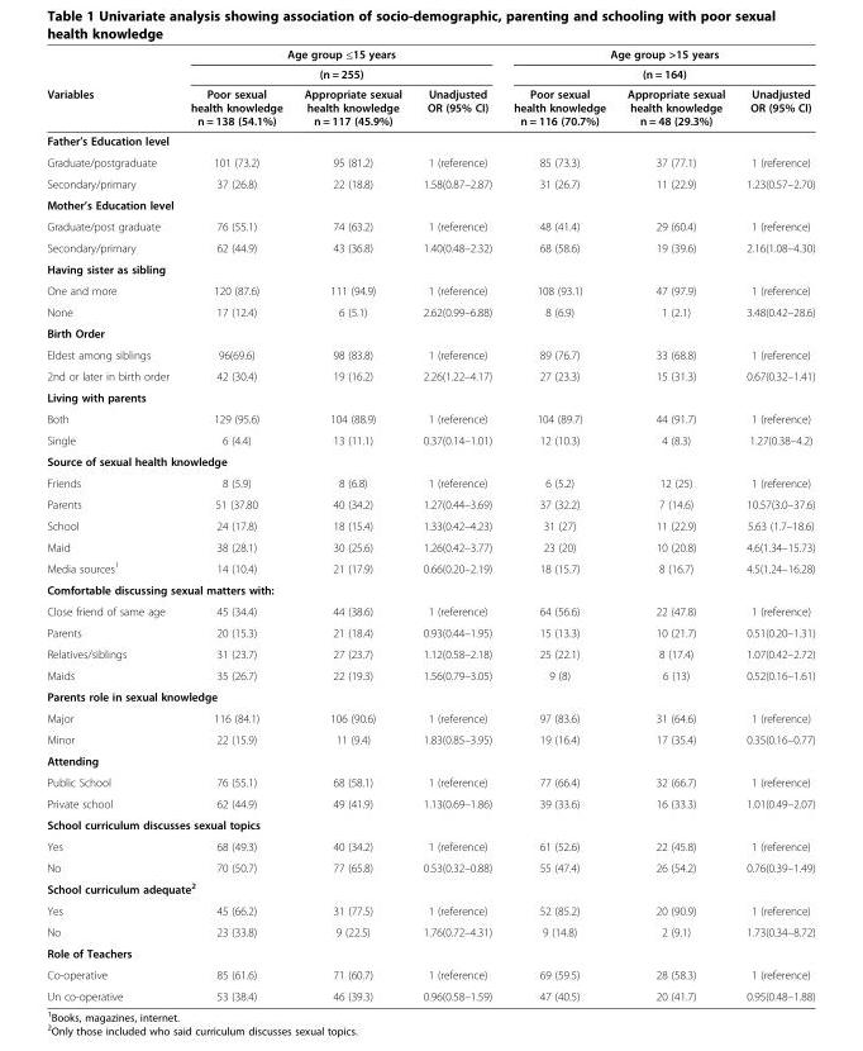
<table><thead><tr><td rowspan="3">Variables</td><td rowspan="2" colspan="3">Age group ≤15 years (n = 255)</td><td rowspan="2" colspan="3">Age group &gt;15 years (n = 164)</td></tr><tr></tr><tr><td>Poor sexual health knowledge n = 138 (54.1%)</td><td>Appropriate sexual health knowledge n = 117 (45.9%)</td><td>Unadjusted OR (95% CI)</td><td>Poor sexual health knowledge n = 116 (70.7%)</td><td>Appropriate sexual health knowledge n = 48 (29.3%)</td><td>Unadjusted OR (95% CI)</td></tr></thead><tbody><tr><td colspan="7">Father’s Education level</td></tr><tr><td>Graduate/postgraduate</td><td>101 (73.2)</td><td>95 (81.2)</td><td>1 (reference)</td><td>85 (73.3)</td><td>37 (77.1)</td><td>1 (reference)</td></tr><tr><td>Secondary/primary</td><td>37 (26.8)</td><td>22 (18.8)</td><td>1.58(0.87–2.87)</td><td>31 (26.7)</td><td>11 (22.9)</td><td>1.23(0.57–2.70)</td></tr><tr><td colspan="7">Mother’s Education level</td></tr><tr><td>Graduate/post graduate</td><td>76 (55.1)</td><td>74 (63.2)</td><td>1 (reference)</td><td>48 (41.4)</td><td>29 (60.4)</td><td>1 (reference)</td></tr><tr><td>Secondary/primary</td><td>62 (44.9)</td><td>43 (36.8)</td><td>1.40(0.48–2.32)</td><td>68 (58.6)</td><td>19 (39.6)</td><td>2.16(1.08–4.30)</td></tr><tr><td colspan="7">Having sister as sibling</td></tr><tr><td>One and more</td><td>120 (87.6)</td><td>111 (94.9)</td><td>1 (reference)</td><td>108 (93.1)</td><td>47 (97.9)</td><td>1 (reference)</td></tr><tr><td>None</td><td>17 (12.4)</td><td>6 (5.1)</td><td>2.62(0.99–6.88)</td><td>8 (6.9)</td><td>1 (2.1)</td><td>3.48(0.42–28.6)</td></tr><tr><td colspan="7">Birth Order</td></tr><tr><td>Eldest among siblings</td><td>96(69.6)</td><td>98 (83.8)</td><td>1 (reference)</td><td>89 (76.7)</td><td>33 (68.8)</td><td>1 (reference)</td></tr><tr><td>2nd or later in birth order</td><td>42 (30.4)</td><td>19 (16.2)</td><td>2.26(1.22–4.17)</td><td>27 (23.3)</td><td>15 (31.3)</td><td>0.67(0.32–1.41)</td></tr><tr><td colspan="7">Living with parents</td></tr><tr><td>Both</td><td>129 (95.6)</td><td>104 (88.9)</td><td>1 (reference)</td><td>104 (89.7)</td><td>44 (91.7)</td><td>1 (reference)</td></tr><tr><td>Single</td><td>6 (4.4)</td><td>13 (11.1)</td><td>0.37(0.14–1.01)</td><td>12 (10.3)</td><td>4 (8.3)</td><td>1.27(0.38–4.2)</td></tr><tr><td colspan="7">Source of sexual health knowledge</td></tr><tr><td>Friends</td><td>8 (5.9)</td><td>8 (6.8)</td><td>1 (reference)</td><td>6 (5.2)</td><td>12 (25)</td><td>1 (reference)</td></tr><tr><td>Parents</td><td>51 (37.80</td><td>40 (34.2)</td><td>1.27(0.44–3.69)</td><td>37 (32.2)</td><td>7 (14.6)</td><td>10.57(3.0–37.6)</td></tr><tr><td>School</td><td>24 (17.8)</td><td>18 (15.4)</td><td>1.33(0.42–4.23)</td><td>31 (27)</td><td>11 (22.9)</td><td>5.63 (1.7–18.6)</td></tr><tr><td>Maid</td><td>38 (28.1)</td><td>30 (25.6)</td><td>1.26(0.42–3.77)</td><td>23 (20)</td><td>10 (20.8)</td><td>4.6(1.34–15.73)</td></tr><tr><td>Media sources<sup>1</sup></td><td>14 (10.4)</td><td>21 (17.9)</td><td>0.66(0.20–2.19)</td><td>18 (15.7)</td><td>8 (16.7)</td><td>4.5(1.24–16.28)</td></tr><tr><td colspan="7">Comfortable discussing sexual matters with:</td></tr><tr><td>Close friend of same age</td><td>45 (34.4)</td><td>44 (38.6)</td><td>1 (reference)</td><td>64 (56.6)</td><td>22 (47.8)</td><td>1 (reference)</td></tr><tr><td>Parents</td><td>20 (15.3)</td><td>21 (18.4)</td><td>0.93(0.44–1.95)</td><td>15 (13.3)</td><td>10 (21.7)</td><td>0.51(0.20–1.31)</td></tr><tr><td>Relatives/siblings</td><td>31 (23.7)</td><td>27 (23.7)</td><td>1.12(0.58–2.18)</td><td>25 (22.1)</td><td>8 (17.4)</td><td>1.07(0.42–2.72)</td></tr><tr><td>Maids</td><td>35 (26.7)</td><td>22 (19.3)</td><td>1.56(0.79–3.05)</td><td>9 (8)</td><td>6 (13)</td><td>0.52(0.16–1.61)</td></tr><tr><td colspan="7">Parents role in sexual knowledge</td></tr><tr><td>Major</td><td>116 (84.1)</td><td>106 (90.6)</td><td>1 (reference)</td><td>97 (83.6)</td><td>31 (64.6)</td><td>1 (reference)</td></tr><tr><td>Minor</td><td>22 (15.9)</td><td>11 (9.4)</td><td>1.83(0.85–3.95)</td><td>19 (16.4)</td><td>17 (35.4)</td><td>0.35(0.16–0.77)</td></tr><tr><td colspan="7">Attending</td></tr><tr><td>Public School</td><td>76 (55.1)</td><td>68 (58.1)</td><td>1 (reference)</td><td>77 (66.4)</td><td>32 (66.7)</td><td>1 (reference)</td></tr><tr><td>Private school</td><td>62 (44.9)</td><td>49 (41.9)</td><td>1.13(0.69–1.86)</td><td>39 (33.6)</td><td>16 (33.3)</td><td>1.01(0.49–2.07)</td></tr><tr><td colspan="7">School curriculum discusses sexual topics</td></tr><tr><td>Yes</td><td>68 (49.3)</td><td>40 (34.2)</td><td>1 (reference)</td><td>61 (52.6)</td><td>22 (45.8)</td><td>1 (reference)</td></tr><tr><td>No</td><td>70 (50.7)</td><td>77 (65.8)</td><td>0.53(0.32–0.88)</td><td>55 (47.4)</td><td>26 (54.2)</td><td>0.76(0.39–1.49)</td></tr><tr><td colspan="7">School curriculum adequate<sup>2</sup></td></tr><tr><td>Yes</td><td>45 (66.2)</td><td>31 (77.5)</td><td>1 (reference)</td><td>52 (85.2)</td><td>20 (90.9)</td><td>1 (reference)</td></tr><tr><td>No</td><td>23 (33.8)</td><td>9 (22.5)</td><td>1.76(0.72–4.31)</td><td>9 (14.8)</td><td>2 (9.1)</td><td>1.73(0.34–8.72)</td></tr><tr><td colspan="7">Role of Teachers</td></tr><tr><td>Co-operative</td><td>85 (61.6)</td><td>71 (60.7)</td><td>1 (reference)</td><td>69 (59.5)</td><td>28 (58.3)</td><td>1 (reference)</td></tr><tr><td>Un co-operative</td><td>53 (38.4)</td><td>46 (39.3)</td><td>0.96(0.58–1.59)</td><td>47 (40.5)</td><td>20 (41.7)</td><td>0.95(0.48–1.88)</td></tr></tbody></table>